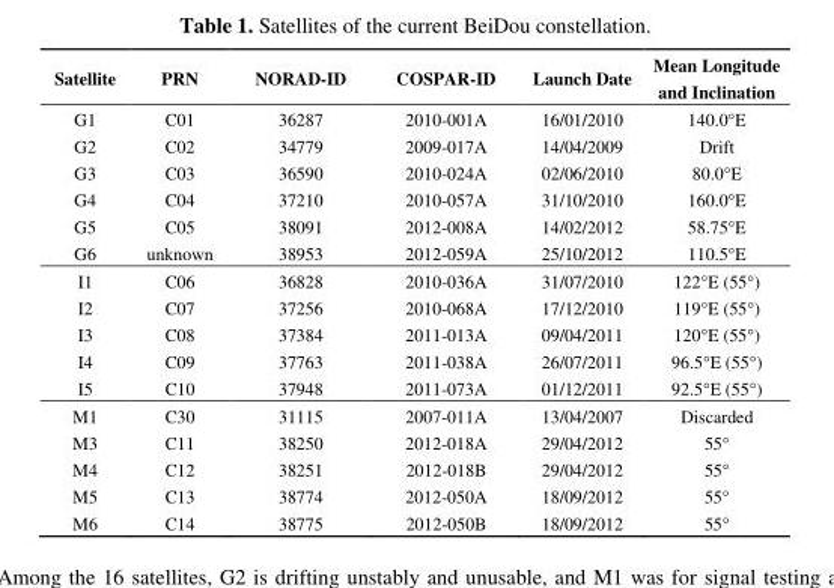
<table><thead><tr><td>Satellite</td><td>PRN</td><td>NORAD-ID</td><td>COSPAR-ID</td><td>Launch Date</td><td>Mean Longitude and Inclination</td></tr></thead><tbody><tr><td>G1</td><td>C01</td><td>36287</td><td>2010-001A</td><td>16/01/2010</td><td>140.0°E</td></tr><tr><td>G2</td><td>C02</td><td>34779</td><td>2009-017A</td><td>14/04/2009</td><td>Drift</td></tr><tr><td>G3</td><td>C03</td><td>36590</td><td>2010-024A</td><td>02/06/2010</td><td>80.0°E</td></tr><tr><td>G4</td><td>C04</td><td>37210</td><td>2010-057A</td><td>31/10/2010</td><td>160.0°E</td></tr><tr><td>G5</td><td>C05</td><td>38091</td><td>2012-008A</td><td>14/02/2012</td><td>58.75°E</td></tr><tr><td>G6</td><td>unknown</td><td>38953</td><td>2012-059A</td><td>25/10/2012</td><td>110.5°E</td></tr><tr><td>I1</td><td>C06</td><td>36828</td><td>2010-036A</td><td>31/07/2010</td><td>122°E (55°)</td></tr><tr><td>I2</td><td>C07</td><td>37256</td><td>2010-068A</td><td>17/12/2010</td><td>119°E (55°)</td></tr><tr><td>I3</td><td>C08</td><td>37384</td><td>2011-013A</td><td>09/04/2011</td><td>120°E (55°)</td></tr><tr><td>I4</td><td>C09</td><td>37763</td><td>2011-038A</td><td>26/07/2011</td><td>96.5°E (55°)</td></tr><tr><td>I5</td><td>C10</td><td>37948</td><td>2011-073A</td><td>01/12/2011</td><td>92.5°E (55°)</td></tr><tr><td>M1</td><td>C30</td><td>31115</td><td>2007-011A</td><td>13/04/2007</td><td>Discarded</td></tr><tr><td>M3</td><td>C11</td><td>38250</td><td>2012-018A</td><td>29/04/2012</td><td>55°</td></tr><tr><td>M4</td><td>C12</td><td>38251</td><td>2012-018B</td><td>29/04/2012</td><td>55°</td></tr><tr><td>M5</td><td>C13</td><td>38774</td><td>2012-050A</td><td>18/09/2012</td><td>55°</td></tr><tr><td>M6</td><td>C14</td><td>38775</td><td>2012-050B</td><td>18/09/2012</td><td>55°</td></tr></tbody></table>